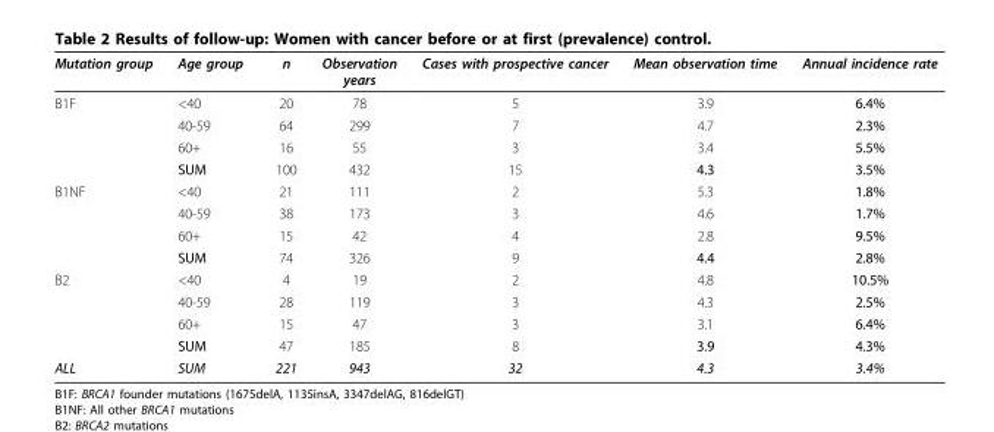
<table><thead><tr><td>Mutation group</td><td>Age group</td><td>n</td><td>Observation years</td><td>Cases with prospective cancer</td><td>Mean observation time</td><td>Annual incidence rate</td></tr></thead><tbody><tr><td rowspan="4">B1F</td><td>&lt;40</td><td>20</td><td>78</td><td>5</td><td>3.9</td><td>6.4%</td></tr><tr><td>40-59</td><td>64</td><td>299</td><td>7</td><td>4.7</td><td>2.3%</td></tr><tr><td>60+</td><td>16</td><td>55</td><td>3</td><td>3.4</td><td>5.5%</td></tr><tr><td>SUM</td><td>100</td><td>432</td><td>15</td><td>4.3</td><td>3.5%</td></tr><tr><td rowspan="4">B1NF</td><td>&lt;40</td><td>21</td><td>111</td><td>2</td><td>5.3</td><td>1.8%</td></tr><tr><td>40-59</td><td>38</td><td>173</td><td>3</td><td>4.6</td><td>1.7%</td></tr><tr><td>60+</td><td>15</td><td>42</td><td>4</td><td>2.8</td><td>9.5%</td></tr><tr><td>SUM</td><td>74</td><td>326</td><td>9</td><td>4.4</td><td>2.8%</td></tr><tr><td rowspan="4">B2</td><td>&lt;40</td><td>4</td><td>19</td><td>2</td><td>4.8</td><td>10.5%</td></tr><tr><td>40-59</td><td>28</td><td>119</td><td>3</td><td>4.3</td><td>2.5%</td></tr><tr><td>60+</td><td>15</td><td>47</td><td>3</td><td>3.1</td><td>6.4%</td></tr><tr><td>SUM</td><td>47</td><td>185</td><td>8</td><td>3.9</td><td>4.3%</td></tr><tr><td>ALL</td><td>SUM</td><td>221</td><td>943</td><td>32</td><td>4.3</td><td>3.4%</td></tr></tbody></table>